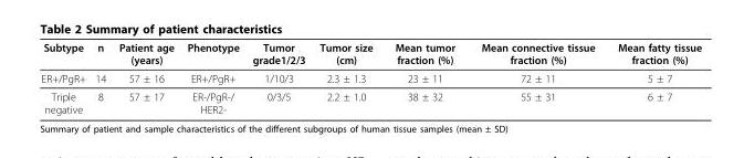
<table><thead><tr><td>Subtype</td><td>n</td><td>Patient age (years)</td><td>Phenotype</td><td>Tumor grade1/2/3</td><td>Tumor size (cm)</td><td>Mean tumor fraction (%)</td><td>Mean connective tissue fraction (%)</td><td>Mean fatty tissue fraction (%)</td></tr></thead><tbody><tr><td>ER+/PgR+</td><td>14</td><td>57 ± 16</td><td>ER+/PgR+</td><td>1/10/3</td><td>2.3 ± 1.3</td><td>23 ± 11</td><td>72 ± 11</td><td>5 ± 7</td></tr><tr><td>Triple negative</td><td>8</td><td>57 ± 17</td><td>ER-/PgR-/ HER2-</td><td>0/3/5</td><td>2.2 ± 1.0</td><td>38 ± 32</td><td>55 ± 31</td><td>6 ± 7</td></tr></tbody></table>